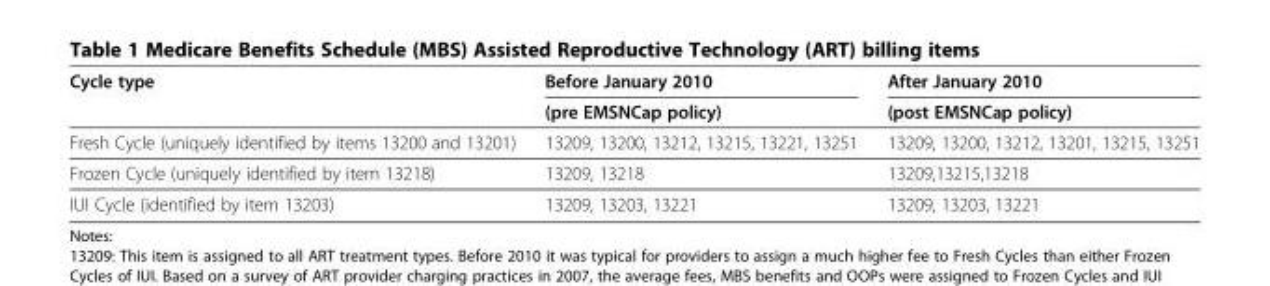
<table><thead><tr><td rowspan="2">Cycle type</td><td rowspan="2">Before January 2010 (pre EMSNCap policy)</td><td rowspan="2">After January 2010 (post EMSNCap policy)</td></tr><tr></tr></thead><tbody><tr><td>Fresh Cycle (uniquely identified by items 13200 and 13201)</td><td>13209, 13200, 13212, 13215, 13221, 13251</td><td>13209, 13200, 13212, 13201, 13215, 13251</td></tr><tr><td>Frozen Cycle (uniquely identified by item 13218)</td><td>13209, 13218</td><td>13209,13215,13218</td></tr><tr><td>IUI Cycle (identified by item 13203)</td><td>13209, 13203, 13221</td><td>13209, 13203, 13221</td></tr></tbody></table>